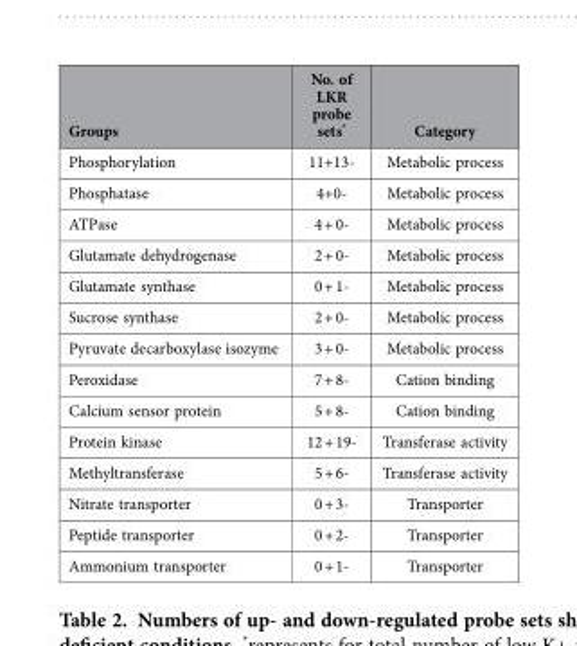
<table><thead><tr><td>Groups</td><td>No. of LKR probe sets*</td><td>Category</td></tr></thead><tbody><tr><td>Phosphorylation</td><td>11+13-</td><td>Metabolic process</td></tr><tr><td>Phosphatase</td><td>4+0-</td><td>Metabolic process</td></tr><tr><td>ATPase</td><td>4 + 0-</td><td>Metabolic process</td></tr><tr><td>Glutamate dehydrogenase</td><td>2 + 0-</td><td>Metabolic process</td></tr><tr><td>Glutamate synthase</td><td>0 + 1-</td><td>Metabolic process</td></tr><tr><td>Sucrose synthase</td><td>2 + 0-</td><td>Metabolic process</td></tr><tr><td>Pyruvate decarboxylase isozyme</td><td>3 + 0-</td><td>Metabolic process</td></tr><tr><td>Peroxidase</td><td>7 + 8-</td><td>Cation binding</td></tr><tr><td>Calcium sensor protein</td><td>5 + 8-</td><td>Cation binding</td></tr><tr><td>Protein kinase</td><td>12 + 19-</td><td>Transferase activity</td></tr><tr><td>Methyltransferase</td><td>5 + 6-</td><td>Transferase activity</td></tr><tr><td>Nitrate transporter</td><td>0 + 3-</td><td>Transporter</td></tr><tr><td>Peptide transporter</td><td>0 + 2-</td><td>Transporter</td></tr><tr><td>Ammonium transporter</td><td>0 + 1-</td><td>Transporter</td></tr></tbody></table>